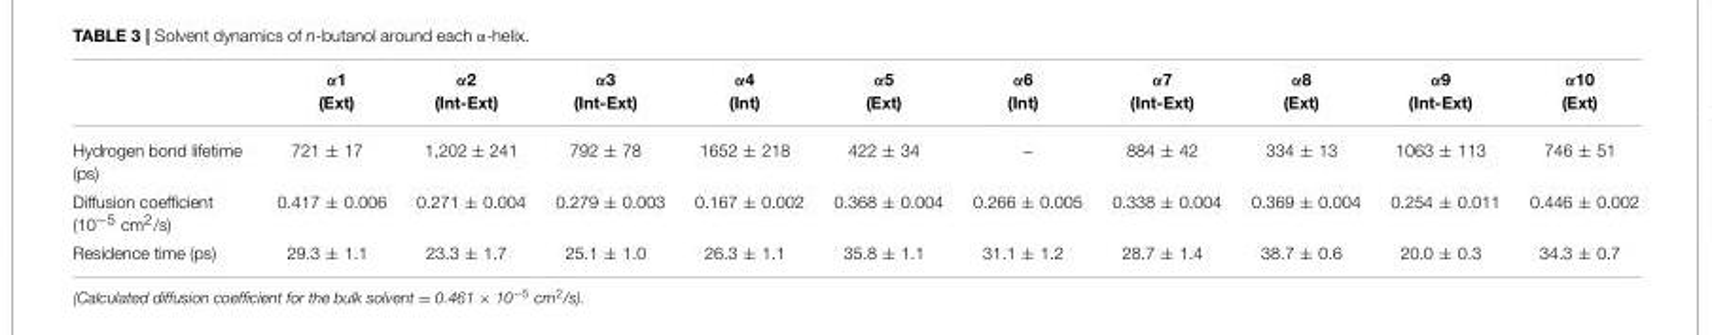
<table><thead><tr><td></td><td>α1 (Ext)</td><td>α2 (Int-Ext)</td><td>α3 (Int-Ext)</td><td>α4 (Int)</td><td>α5 (Ext)</td><td>α6 (Int)</td><td>α7 (Int-Ext)</td><td>α8 (Ext)</td><td>α9 (Int-Ext)</td><td>α10 (Ext)</td></tr></thead><tbody><tr><td>Hydrogen bond lifetime (ps)</td><td>721 ± 17</td><td>1,202 ± 241</td><td>792 ± 78</td><td>1652 ± 218</td><td>422 ± 34</td><td>–</td><td>884 ± 42</td><td>334 ± 13</td><td>1063 ± 113</td><td>746 ± 51</td></tr><tr><td>Diffusion coefficient (10<sup>−5</sup> cm<sup>2</sup>/s)</td><td>0.417 ± 0.006</td><td>0.271 ± 0.004</td><td>0.279 ± 0.003</td><td>0.167 ± 0.002</td><td>0.368 ± 0.004</td><td>0.266 ± 0.005</td><td>0.338 ± 0.004</td><td>0.369 ± 0.004</td><td>0.254 ± 0.011</td><td>0.446 ± 0.002</td></tr><tr><td>Residence time (ps)</td><td>29.3 ± 1.1</td><td>23.3 ± 1.7</td><td>25.1 ± 1.0</td><td>26.3 ± 1.1</td><td>35.8 ± 1.1</td><td>31.1 ± 1.2</td><td>28.7 ± 1.4</td><td>38.7 ± 0.6</td><td>20.0 ± 0.3</td><td>34.3 ± 0.7</td></tr></tbody></table>